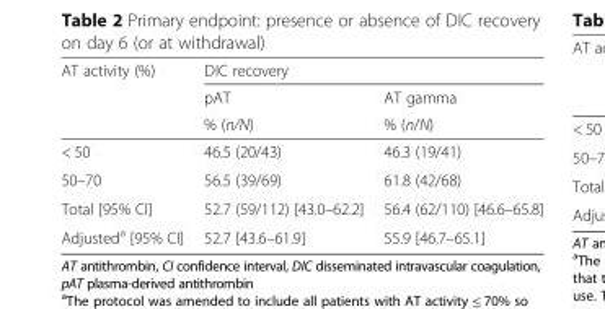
<table><thead><tr><td rowspan="3">AT activity (%)</td><td colspan="2">DIC recovery</td></tr><tr><td rowspan="2">pAT % (n/N)</td><td rowspan="2">AT gamma % (n/N)</td></tr><tr></tr></thead><tbody><tr><td>&lt; 50</td><td>46.5 (20/43)</td><td>46.3 (19/41)</td></tr><tr><td>50–70</td><td>56.5 (39/69)</td><td>61.8 (42/68)</td></tr><tr><td>Total [95% CI]</td><td>52.7 (59/112) [43.0–62.2]</td><td>56.4 (62/110) [46.6–65.8]</td></tr><tr><td>Adjusted<sup>a</sup> [95% CI]</td><td>52.7 [43.6–61.9]</td><td>55.9 [46.7–65.1]</td></tr></tbody></table>